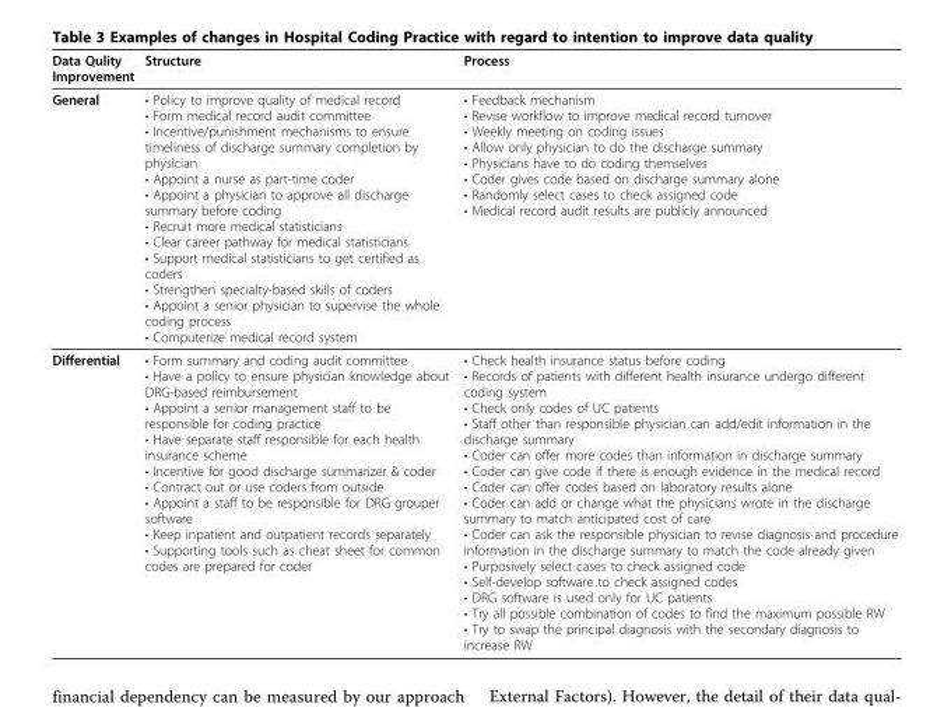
<table><thead><tr><td>Data Qulity Improvement</td><td>Structure</td><td>Process</td></tr></thead><tbody><tr><td>General</td><td>• Policy to improve quality of medical record • Form medical record audit committee • Incentive/punishment mechanisms to ensure timeliness of discharge summary completion by physician • Appoint a nurse as part-time coder • Appoint a physician to approve all discharge summary before coding • Recruit more medical statisticians • Clear career pathway for medical statisticians • Support medical statisticians to get certified as coders • Strengthen specialty-based skills of coders • Appoint a senior physician to supervise the whole coding process • Computerize medical record system</td><td>• Feedback mechanism • Revise workflow to improve medical record turnover • Weekly meeting on coding issues • Allow only physician to do the discharge summary • Physicians have to do coding themselves • Coder gives code based on discharge summary alone • Randomly select cases to check assigned code • Medical record audit results are publicly announced</td></tr><tr><td>Differential</td><td>• Form summary and coding audit committee • Have a policy to ensure physician knowledge about DRG-based reimbursement • Appoint a senior management staff to be responsible for coding practice • Have separate staff responsible for each health insurance scheme • Incentive for good discharge summarizer &amp; coder • Contract out or use coders from outside • Appoint a staff to be responsible for DRG grouper software • Keep inpatient and outpatient records separately • Supporting tools such as cheat sheet for common codes are prepared for coder</td><td>• Check health insurance status before coding • Records of patients with different health insurance undergo different coding system • Check only codes of UC patients • Staff other than responsible physician can add/edit information in the discharge summary • Coder can offer more codes than information in discharge summary • Coder can give code if there is enough evidence in the medical record • Coder can offer codes based on laboratory results alone • Coder can add or change what the physicians wrote in the discharge summary to match anticipated cost of care • Coder can ask the responsible physician to revise diagnosis and procedure information in the discharge summary to match the code already given • Purposively select cases to check assigned code • Self-develop software to check assigned codes • DRG software is used only for UC patients • Try all possible combination of codes to find the maximum possible RW • Try to swap the principal diagnosis with the secondary diagnosis to increase RW</td></tr></tbody></table>